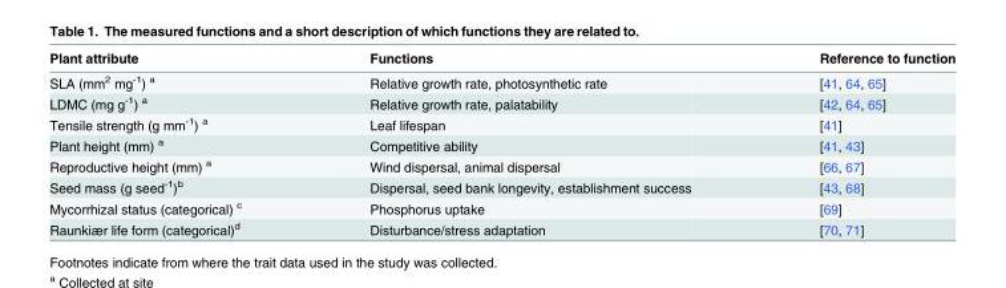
<table><thead><tr><td>Plant attribute</td><td>Functions</td><td>Reference to function</td></tr></thead><tbody><tr><td>SLA (mm<sup>2</sup> mg<sup>-1</sup>) <sup>a</sup></td><td>Relative growth rate, photosynthetic rate</td><td>[41, 64, 65]</td></tr><tr><td>LDMC (mg g<sup>-1</sup>) <sup>a</sup></td><td>Relative growth rate, palatability</td><td>[42, 64, 65]</td></tr><tr><td>Tensile strength (g mm<sup>-1</sup>) <sup>a</sup></td><td>Leaf lifespan</td><td>[41]</td></tr><tr><td>Plant height (mm) <sup>a</sup></td><td>Competitive ability</td><td>[41, 43]</td></tr><tr><td>Reproductive height (mm) <sup>a</sup></td><td>Wind dispersal, animal dispersal</td><td>[66, 67]</td></tr><tr><td>Seed mass (g seed<sup>-1</sup>)<sup>b</sup></td><td>Dispersal, seed bank longevity, establishment success</td><td>[43, 68]</td></tr><tr><td>Mycorrhizal status (categorical) <sup>c</sup></td><td>Phosphorus uptake</td><td>[69]</td></tr><tr><td>Raunkiær life form (categorical)<sup>d</sup></td><td>Disturbance/stress adaptation</td><td>[70, 71]</td></tr></tbody></table>